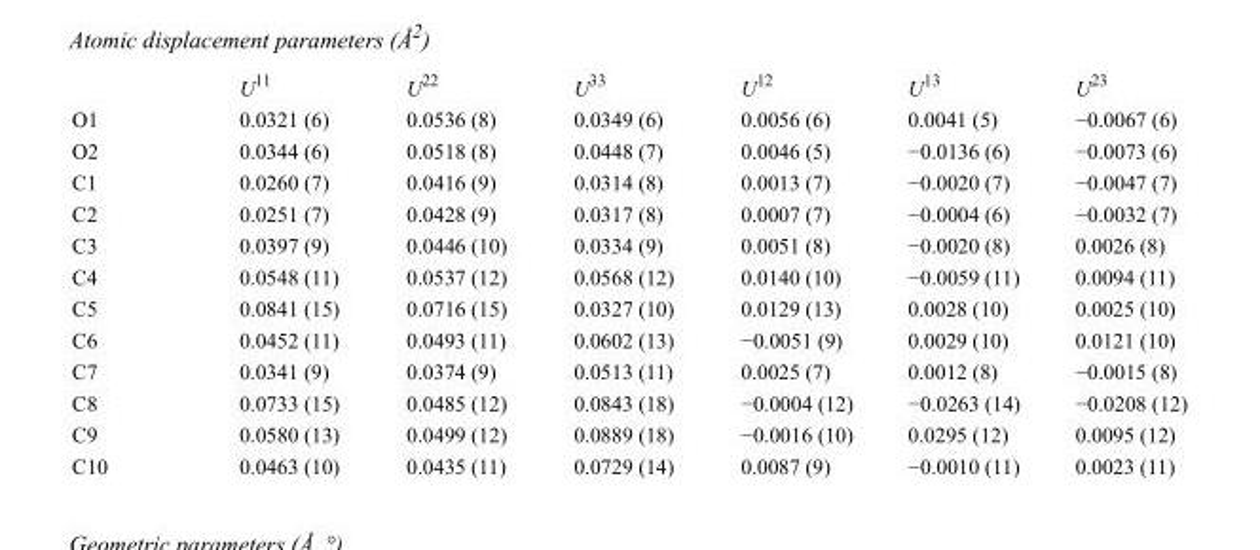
<table><thead><tr><td></td><td>U<sup>11</sup></td><td>U<sup>22</sup></td><td>U<sup>33</sup></td><td>U<sup>12</sup></td><td>U<sup>13</sup></td><td>U<sup>23</sup></td></tr></thead><tbody><tr><td>O1</td><td>0.0321 (6)</td><td>0.0536 (8)</td><td>0.0349 (6)</td><td>0.0056 (6)</td><td>0.0041 (5)</td><td>−0.0067 (6)</td></tr><tr><td>O2</td><td>0.0344 (6)</td><td>0.0518 (8)</td><td>0.0448 (7)</td><td>0.0046 (5)</td><td>−0.0136 (6)</td><td>−0.0073 (6)</td></tr><tr><td>C1</td><td>0.0260 (7)</td><td>0.0416 (9)</td><td>0.0314 (8)</td><td>0.0013 (7)</td><td>−0.0020 (7)</td><td>−0.0047 (7)</td></tr><tr><td>C2</td><td>0.0251 (7)</td><td>0.0428 (9)</td><td>0.0317 (8)</td><td>0.0007 (7)</td><td>−0.0004 (6)</td><td>−0.0032 (7)</td></tr><tr><td>C3</td><td>0.0397 (9)</td><td>0.0446 (10)</td><td>0.0334 (9)</td><td>0.0051 (8)</td><td>−0.0020 (8)</td><td>0.0026 (8)</td></tr><tr><td>C4</td><td>0.0548 (11)</td><td>0.0537 (12)</td><td>0.0568 (12)</td><td>0.0140 (10)</td><td>−0.0059 (11)</td><td>0.0094 (11)</td></tr><tr><td>C5</td><td>0.0841 (15)</td><td>0.0716 (15)</td><td>0.0327 (10)</td><td>0.0129 (13)</td><td>0.0028 (10)</td><td>0.0025 (10)</td></tr><tr><td>C6</td><td>0.0452 (11)</td><td>0.0493 (11)</td><td>0.0602 (13)</td><td>−0.0051 (9)</td><td>0.0029 (10)</td><td>0.0121 (10)</td></tr><tr><td>C7</td><td>0.0341 (9)</td><td>0.0374 (9)</td><td>0.0513 (11)</td><td>0.0025 (7)</td><td>0.0012 (8)</td><td>−0.0015 (8)</td></tr><tr><td>C8</td><td>0.0733 (15)</td><td>0.0485 (12)</td><td>0.0843 (18)</td><td>−0.0004 (12)</td><td>−0.0263 (14)</td><td>−0.0208 (12)</td></tr><tr><td>C9</td><td>0.0580 (13)</td><td>0.0499 (12)</td><td>0.0889 (18)</td><td>−0.0016 (10)</td><td>0.0295 (12)</td><td>0.0095 (12)</td></tr><tr><td>C10</td><td>0.0463 (10)</td><td>0.0435 (11)</td><td>0.0729 (14)</td><td>0.0087 (9)</td><td>−0.0010 (11)</td><td>0.0023 (11)</td></tr></tbody></table>